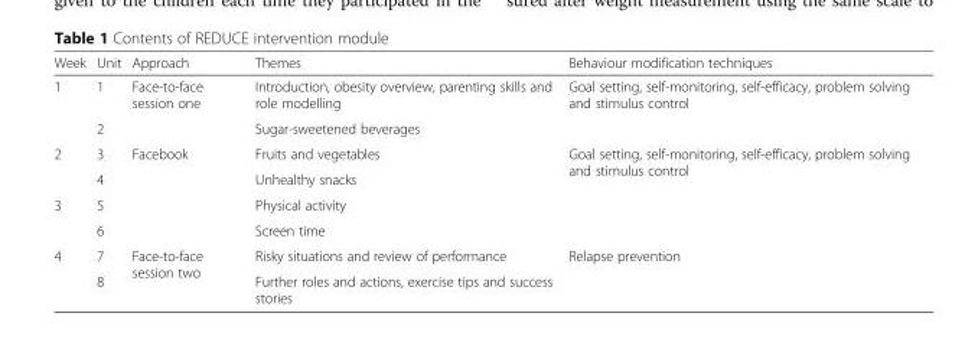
<table><thead><tr><td>Week</td><td>Unit</td><td>Approach</td><td>Themes</td><td>Behaviour modification techniques</td></tr></thead><tbody><tr><td rowspan="2">1</td><td>1</td><td rowspan="2">Face-to-face session one</td><td>Introduction, obesity overview, parenting skills and role modelling</td><td rowspan="2">Goal setting, self-monitoring, self-efficacy, problem solving and stimulus control</td></tr><tr><td>2</td><td>Sugar-sweetened beverages</td></tr><tr><td rowspan="2">2</td><td>3</td><td rowspan="4">Facebook</td><td>Fruits and vegetables</td><td rowspan="4">Goal setting, self-monitoring, self-efficacy, problem solving and stimulus control</td></tr><tr><td>4</td><td>Unhealthy snacks</td></tr><tr><td rowspan="2">3</td><td>5</td><td>Physical activity</td></tr><tr><td>6</td><td>Screen time</td></tr><tr><td rowspan="2">4</td><td>7</td><td rowspan="2">Face-to-face session two</td><td>Risky situations and review of performance</td><td rowspan="2">Relapse prevention</td></tr><tr><td>8</td><td>Further roles and actions, exercise tips and success stories</td></tr></tbody></table>